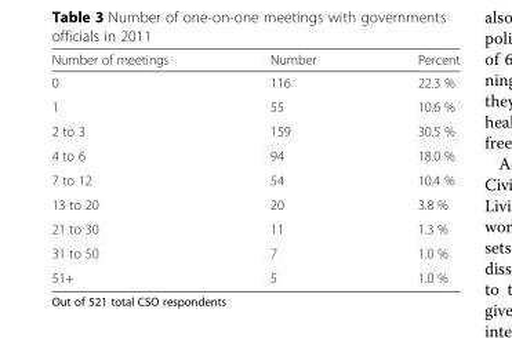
<table><thead><tr><td>Number of meetings</td><td>Number</td><td>Percent</td></tr></thead><tbody><tr><td>0</td><td>116</td><td>22.3 %</td></tr><tr><td>1</td><td>55</td><td>10.6 %</td></tr><tr><td>2 to 3</td><td>159</td><td>30.5 %</td></tr><tr><td>4 to 6</td><td>94</td><td>18.0 %</td></tr><tr><td>7 to 12</td><td>54</td><td>10.4 %</td></tr><tr><td>13 to 20</td><td>20</td><td>3.8 %</td></tr><tr><td>21 to 30</td><td>11</td><td>1.3 %</td></tr><tr><td>31 to 50</td><td>7</td><td>1.0 %</td></tr><tr><td>51+</td><td>5</td><td>1.0 %</td></tr></tbody></table>